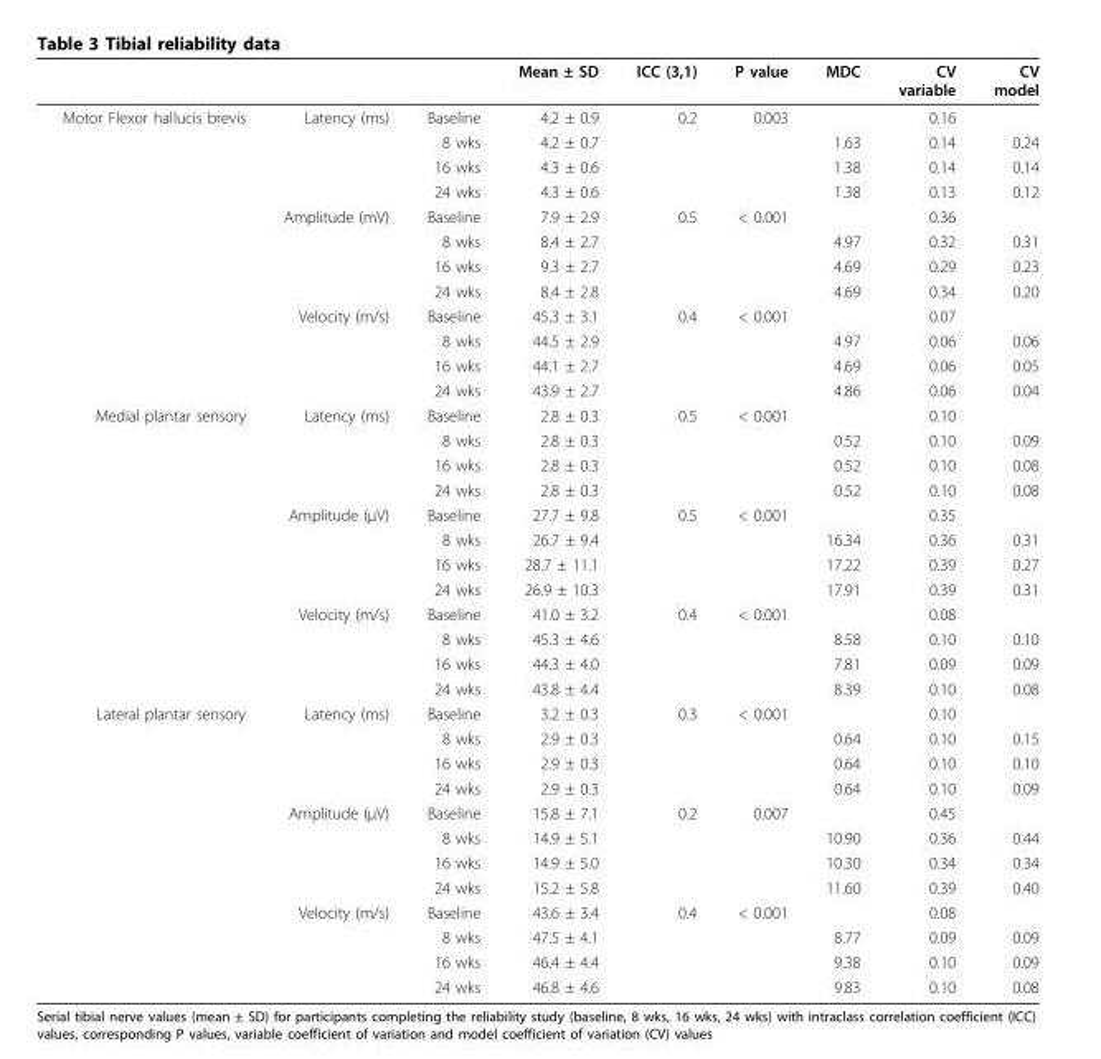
<table><thead><tr><td></td><td></td><td></td><td>Mean ± SD</td><td>ICC (3,1)</td><td>P value</td><td>MDC</td><td>CV variable</td><td>CV model</td></tr></thead><tbody><tr><td rowspan="12">Motor Flexor hallucis brevis</td><td>Latency (ms)</td><td>Baseline</td><td>4.2 ± 0.9</td><td>0.2</td><td>0.003</td><td></td><td>0.16</td><td></td></tr><tr><td></td><td>8 wks</td><td>4.2 ± 0.7</td><td></td><td></td><td>1.63</td><td>0.14</td><td>0.24</td></tr><tr><td></td><td>16 wks</td><td>4.3 ± 0.6</td><td></td><td></td><td>1.38</td><td>0.14</td><td>0.14</td></tr><tr><td></td><td>24 wks</td><td>4.3 ± 0.6</td><td></td><td></td><td>1.38</td><td>0.13</td><td>0.12</td></tr><tr><td>Amplitude (mV)</td><td>Baseline</td><td>7.9 ± 2.9</td><td>0.5</td><td>&lt; 0.001</td><td></td><td>0.36</td><td></td></tr><tr><td></td><td>8 wks</td><td>8.4 ± 2.7</td><td></td><td></td><td>4.97</td><td>0.32</td><td>0.31</td></tr><tr><td></td><td>16 wks</td><td>9.3 ± 2.7</td><td></td><td></td><td>4.69</td><td>0.29</td><td>0.23</td></tr><tr><td></td><td>24 wks</td><td>8.4 ± 2.8</td><td></td><td></td><td>4.69</td><td>0.34</td><td>0.20</td></tr><tr><td>Velocity (m/s)</td><td>Baseline</td><td>45.3 ± 3.1</td><td>0.4</td><td>&lt; 0.001</td><td></td><td>0.07</td><td></td></tr><tr><td></td><td>8 wks</td><td>44.5 ± 2.9</td><td></td><td></td><td>4.97</td><td>0.06</td><td>0.06</td></tr><tr><td></td><td>16 wks</td><td>44.1 ± 2.7</td><td></td><td></td><td>4.69</td><td>0.06</td><td>0.05</td></tr><tr><td></td><td>24 wks</td><td>43.9 ± 2.7</td><td></td><td></td><td>4.86</td><td>0.06</td><td>0.04</td></tr><tr><td rowspan="12">Medial plantar sensory</td><td>Latency (ms)</td><td>Baseline</td><td>2.8 ± 0.3</td><td>0.5</td><td>&lt; 0.001</td><td></td><td>0.10</td><td></td></tr><tr><td></td><td>8 wks</td><td>2.8 ± 0.3</td><td></td><td></td><td>0.52</td><td>0.10</td><td>0.09</td></tr><tr><td></td><td>16 wks</td><td>2.8 ± 0.3</td><td></td><td></td><td>0.52</td><td>0.10</td><td>0.08</td></tr><tr><td></td><td>24 wks</td><td>2.8 ± 0.3</td><td></td><td></td><td>0.52</td><td>0.10</td><td>0.08</td></tr><tr><td>Amplitude (μV)</td><td>Baseline</td><td>27.7 ± 9.8</td><td>0.5</td><td>&lt; 0.001</td><td></td><td>0.35</td><td></td></tr><tr><td></td><td>8 wks</td><td>26.7 ± 9.4</td><td></td><td></td><td>16.34</td><td>0.36</td><td>0.31</td></tr><tr><td></td><td>16 wks</td><td>28.7 ± 11.1</td><td></td><td></td><td>17.22</td><td>0.39</td><td>0.27</td></tr><tr><td></td><td>24 wks</td><td>26.9 ± 10.3</td><td></td><td></td><td>17.91</td><td>0.39</td><td>0.31</td></tr><tr><td>Velocity (m/s)</td><td>Baseline</td><td>41.0 ± 3.2</td><td>0.4</td><td>&lt; 0.001</td><td></td><td>0.08</td><td></td></tr><tr><td></td><td>8 wks</td><td>45.3 ± 4.6</td><td></td><td></td><td>8.58</td><td>0.10</td><td>0.10</td></tr><tr><td></td><td>16 wks</td><td>44.3 ± 4.0</td><td></td><td></td><td>7.81</td><td>0.09</td><td>0.09</td></tr><tr><td></td><td>24 wks</td><td>43.8 ± 4.4</td><td></td><td></td><td>8.39</td><td>0.10</td><td>0.08</td></tr><tr><td rowspan="12">Lateral plantar sensory</td><td>Latency (ms)</td><td>Baseline</td><td>3.2 ± 0.3</td><td>0.3</td><td>&lt; 0.001</td><td></td><td>0.10</td><td></td></tr><tr><td></td><td>8 wks</td><td>2.9 ± 0.3</td><td></td><td></td><td>0.64</td><td>0.10</td><td>0.15</td></tr><tr><td></td><td>16 wks</td><td>2.9 ± 0.3</td><td></td><td></td><td>0.64</td><td>0.10</td><td>0.10</td></tr><tr><td></td><td>24 wks</td><td>2.9 ± 0.3</td><td></td><td></td><td>0.64</td><td>0.10</td><td>0.09</td></tr><tr><td>Amplitude (μV)</td><td>Baseline</td><td>15.8 ± 7.1</td><td>0.2</td><td>0.007</td><td></td><td>0.45</td><td></td></tr><tr><td></td><td>8 wks</td><td>14.9 ± 5.1</td><td></td><td></td><td>10.90</td><td>0.36</td><td>0.44</td></tr><tr><td></td><td>16 wks</td><td>14.9 ± 5.0</td><td></td><td></td><td>10.30</td><td>0.34</td><td>0.34</td></tr><tr><td></td><td>24 wks</td><td>15.2 ± 5.8</td><td></td><td></td><td>11.60</td><td>0.39</td><td>0.40</td></tr><tr><td>Velocity (m/s)</td><td>Baseline</td><td>43.6 ± 3.4</td><td>0.4</td><td>&lt; 0.001</td><td></td><td>0.08</td><td></td></tr><tr><td></td><td>8 wks</td><td>47.5 ± 4.1</td><td></td><td></td><td>8.77</td><td>0.09</td><td>0.09</td></tr><tr><td></td><td>16 wks</td><td>46.4 ± 4.4</td><td></td><td></td><td>9.38</td><td>0.10</td><td>0.09</td></tr><tr><td></td><td>24 wks</td><td>46.8 ± 4.6</td><td></td><td></td><td>9.83</td><td>0.10</td><td>0.08</td></tr></tbody></table>